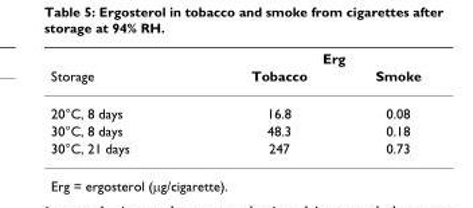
<table><thead><tr><td rowspan="2">Storage</td><td colspan="2">Erg</td></tr><tr><td>Tobacco</td><td>Smoke</td></tr></thead><tbody><tr><td>20°C, 8 days</td><td>16.8</td><td>0.08</td></tr><tr><td>30°C, 8 days</td><td>48.3</td><td>0.18</td></tr><tr><td>30°C, 21 days</td><td>247</td><td>0.73</td></tr></tbody></table>